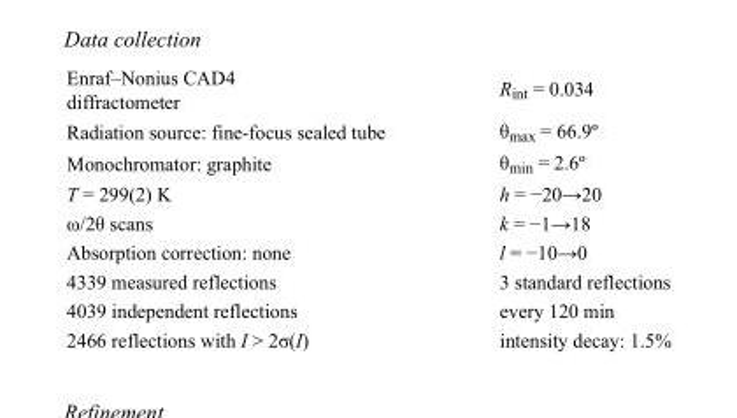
<table><tbody><tr><td>Enraf–Nonius CAD4 diffractometer</td><td>R<sub>int</sub> = 0.034</td></tr><tr><td>Radiation source: fine-focus sealed tube</td><td>θ<sub>max</sub> = 66.9º</td></tr><tr><td>Monochromator: graphite</td><td>θ<sub>min</sub> = 2.6º</td></tr><tr><td>T = 299(2) K</td><td>h = −20→20</td></tr><tr><td>ω/2θ scans</td><td>k = −1→18</td></tr><tr><td>Absorption correction: none</td><td>l = −10→0</td></tr><tr><td>4339 measured reflections</td><td>3 standard reflections</td></tr><tr><td>4039 independent reflections</td><td>every 120 min</td></tr><tr><td>2466 reflections with I &gt; 2σ(I)</td><td>intensity decay: 1.5%</td></tr></tbody></table>